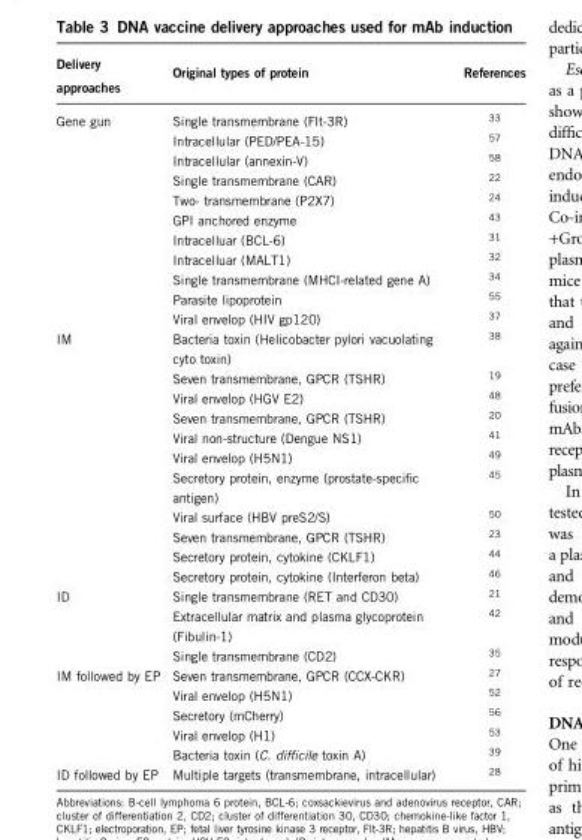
<table><thead><tr><td>Delivery approaches</td><td>Original types of protein</td><td>References</td></tr></thead><tbody><tr><td rowspan="11">Gene gun</td><td>Single transmembrane (Flt-3R)</td><td><sup>33</sup></td></tr><tr><td>Intracellular (PED/PEA-15)</td><td><sup>57</sup></td></tr><tr><td>Intracellular (annexin-V)</td><td><sup>58</sup></td></tr><tr><td>Single transmembrane (CAR)</td><td><sup>22</sup></td></tr><tr><td>Two- transmembrane (P2X7)</td><td><sup>24</sup></td></tr><tr><td>GPI anchored enzyme</td><td><sup>43</sup></td></tr><tr><td>Intracelluar (BCL-6)</td><td><sup>31</sup></td></tr><tr><td>Intracelluar (MALT1)</td><td><sup>32</sup></td></tr><tr><td>Single transmembrane (MHCI-related gene A)</td><td><sup>34</sup></td></tr><tr><td>Parasite lipoprotein</td><td><sup>55</sup></td></tr><tr><td>Viral envelop (HIV gp120)</td><td><sup>37</sup></td></tr><tr><td rowspan="11">IM</td><td>Bacteria toxin (Helicobacter pylori vacuolating cyto toxin)</td><td><sup>38</sup></td></tr><tr><td>Seven transmembrane, GPCR (TSHR)</td><td><sup>19</sup></td></tr><tr><td>Viral envelop (HGV E2)</td><td><sup>48</sup></td></tr><tr><td>Seven transmembrane, GPCR (TSHR)</td><td><sup>20</sup></td></tr><tr><td>Viral non-structure (Dengue NS1)</td><td><sup>41</sup></td></tr><tr><td>Viral envelop (H5N1)</td><td><sup>49</sup></td></tr><tr><td>Secretory protein, enzyme (prostate-specific antigen)</td><td><sup>45</sup></td></tr><tr><td>Viral surface (HBV preS2/S)</td><td><sup>50</sup></td></tr><tr><td>Seven transmembrane, GPCR (TSHR)</td><td><sup>23</sup></td></tr><tr><td>Secretory protein, cytokine (CKLF1)</td><td><sup>44</sup></td></tr><tr><td>Secretory protein, cytokine (Interferon beta)</td><td><sup>46</sup></td></tr><tr><td rowspan="3">ID</td><td>Single transmembrane (RET and CD30)</td><td><sup>21</sup></td></tr><tr><td>Extracellular matrix and plasma glycoprotein (Fibulin-1)</td><td><sup>42</sup></td></tr><tr><td>Single transmembrane (CD2)</td><td><sup>35</sup></td></tr><tr><td rowspan="5">IM followed by EP</td><td>Seven transmembrane, GPCR (CCX-CKR)</td><td><sup>27</sup></td></tr><tr><td>Viral envelop (H5N1)</td><td><sup>52</sup></td></tr><tr><td>Secretory (mCherry)</td><td><sup>56</sup></td></tr><tr><td>Viral envelop (H1)</td><td><sup>53</sup></td></tr><tr><td>Bacteria toxin (C. difficile toxin A)</td><td><sup>39</sup></td></tr><tr><td>ID followed by EP</td><td>Multiple targets (transmembrane, intracellular)</td><td><sup>28</sup></td></tr></tbody></table>